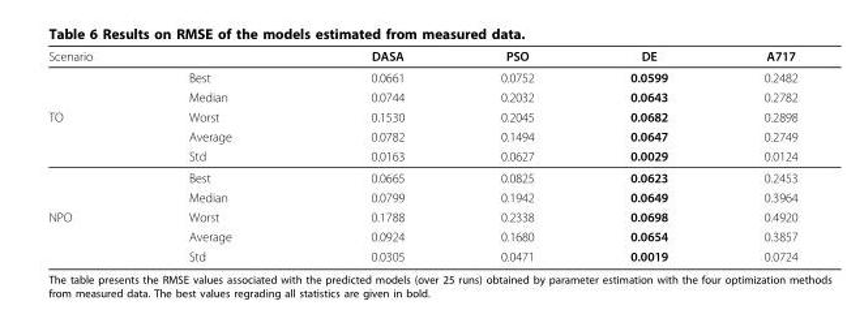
<table><thead><tr><td>Scenario</td><td></td><td>DASA</td><td>PSO</td><td>DE</td><td>A717</td></tr></thead><tbody><tr><td></td><td>Best</td><td>0.0661</td><td>0.0752</td><td>0.0599</td><td>0.2482</td></tr><tr><td></td><td>Median</td><td>0.0744</td><td>0.2032</td><td>0.0643</td><td>0.2782</td></tr><tr><td rowspan="5">TO</td><td>Worst</td><td>0.1530</td><td>0.2045</td><td>0.0682</td><td>0.2898</td></tr><tr><td>Average</td><td>0.0782</td><td>0.1494</td><td>0.0647</td><td>0.2749</td></tr><tr><td>Std</td><td>0.0163</td><td>0.0627</td><td>0.0029</td><td>0.0124</td></tr><tr><td>Best</td><td>0.0665</td><td>0.0825</td><td>0.0623</td><td>0.2453</td></tr><tr><td>Median</td><td>0.0799</td><td>0.1942</td><td>0.0649</td><td>0.3964</td></tr><tr><td rowspan="3">NPO</td><td>Worst</td><td>0.1788</td><td>0.2338</td><td>0.0698</td><td>0.4920</td></tr><tr><td>Average</td><td>0.0924</td><td>0.1680</td><td>0.0654</td><td>0.3857</td></tr><tr><td>Std</td><td>0.0305</td><td>0.0471</td><td>0.0019</td><td>0.0724</td></tr></tbody></table>